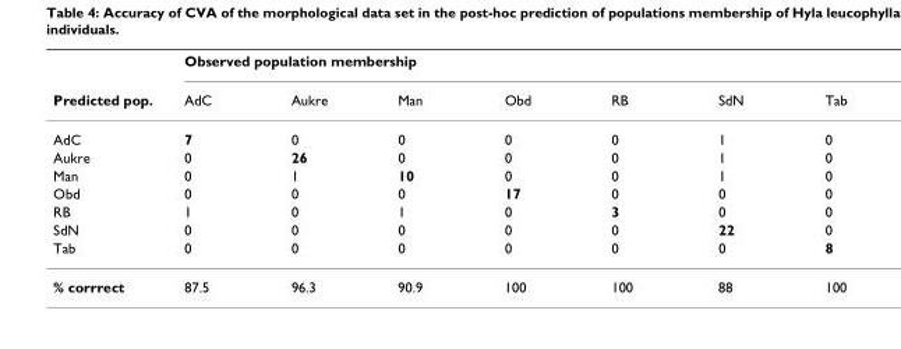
<table><thead><tr><td rowspan="2">Predicted pop.</td><td colspan="7">Observed population membership</td></tr><tr><td>AdC</td><td>Aukre</td><td>Man</td><td>Obd</td><td>RB</td><td>SdN</td><td>Tab</td></tr></thead><tbody><tr><td>AdC</td><td>7</td><td>0</td><td>0</td><td>0</td><td>0</td><td>1</td><td>0</td></tr><tr><td>Aukre</td><td>0</td><td>26</td><td>0</td><td>0</td><td>0</td><td>1</td><td>0</td></tr><tr><td>Man</td><td>0</td><td>1</td><td>10</td><td>0</td><td>0</td><td>1</td><td>0</td></tr><tr><td>Obd</td><td>0</td><td>0</td><td>0</td><td>17</td><td>0</td><td>0</td><td>0</td></tr><tr><td>RB</td><td>1</td><td>0</td><td>1</td><td>0</td><td>3</td><td>0</td><td>0</td></tr><tr><td>SdN</td><td>0</td><td>0</td><td>0</td><td>0</td><td>0</td><td>22</td><td>0</td></tr><tr><td>Tab</td><td>0</td><td>0</td><td>0</td><td>0</td><td>0</td><td>0</td><td>8</td></tr><tr><td>% corrrect</td><td>87.5</td><td>96.3</td><td>90.9</td><td>100</td><td>100</td><td>88</td><td>100</td></tr></tbody></table>